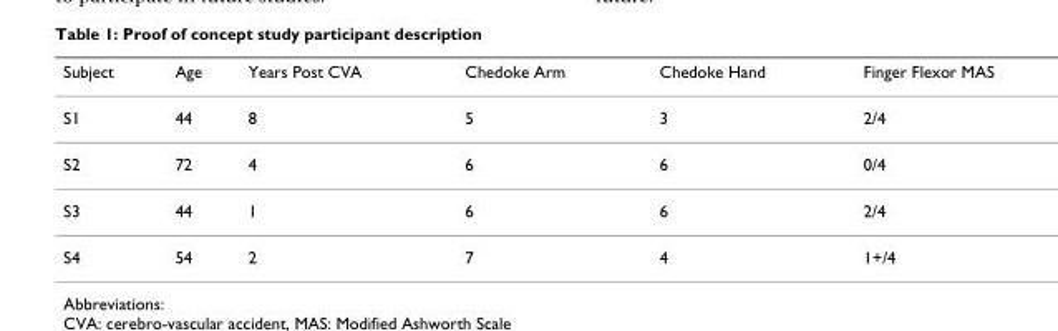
<table><thead><tr><td>Subject</td><td>Age</td><td>Years Post CVA</td><td>Chedoke Arm</td><td>Chedoke Hand</td><td>Finger Flexor MAS</td></tr></thead><tbody><tr><td>S1</td><td>44</td><td>8</td><td>5</td><td>3</td><td>2/4</td></tr><tr><td>S2</td><td>72</td><td>4</td><td>6</td><td>6</td><td>0/4</td></tr><tr><td>S3</td><td>44</td><td>1</td><td>6</td><td>6</td><td>2/4</td></tr><tr><td>S4</td><td>54</td><td>2</td><td>7</td><td>4</td><td>1+/4</td></tr></tbody></table>